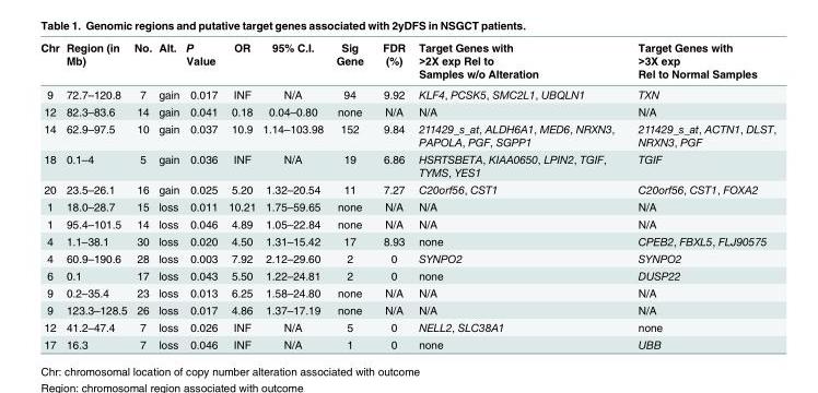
<table><thead><tr><td>Chr</td><td>Region (in Mb)</td><td>No.</td><td>Alt.</td><td>P Value</td><td>OR</td><td>95% C.I.</td><td>Sig Gene</td><td>FDR (%)</td><td>Target Genes with &gt;2X exp Rel to Samples w/o Alteration</td><td>Target Genes with &gt;3X exp Rel to Normal Samples</td></tr></thead><tbody><tr><td>9</td><td>72.7–120.8</td><td>7</td><td>gain</td><td>0.017</td><td>INF</td><td>N/A</td><td>94</td><td>9.92</td><td>KLF4, PCSK5, SMC2L1, UBQLN1</td><td>TXN</td></tr><tr><td>12</td><td>82.3–83.6</td><td>14</td><td>gain</td><td>0.041</td><td>0.18</td><td>0.04–0.80</td><td>none</td><td>N/A</td><td>N/A</td><td>N/A</td></tr><tr><td>14</td><td>62.9–97.5</td><td>10</td><td>gain</td><td>0.037</td><td>10.9</td><td>1.14–103.98</td><td>152</td><td>9.84</td><td>211429_s_at, ALDH6A1, MED6, NRXN3, PAPOLA, PGF, SGPP1</td><td>211429_s_at, ACTN1, DLST, NRXN3, PGF</td></tr><tr><td>18</td><td>0.1–4</td><td>5</td><td>gain</td><td>0.036</td><td>INF</td><td>N/A</td><td>19</td><td>6.86</td><td>HSRTSBETA, KIAA0650, LPIN2, TGIF, TYMS, YES1</td><td>TGIF</td></tr><tr><td>20</td><td>23.5–26.1</td><td>16</td><td>gain</td><td>0.025</td><td>5.20</td><td>1.32–20.54</td><td>11</td><td>7.27</td><td>C20orf56, CST1</td><td>C20orf56, CST1, FOXA2</td></tr><tr><td>1</td><td>18.0–28.7</td><td>15</td><td>loss</td><td>0.011</td><td>10.21</td><td>1.75–59.65</td><td>none</td><td>N/A</td><td>N/A</td><td>N/A</td></tr><tr><td>1</td><td>95.4–101.5</td><td>14</td><td>loss</td><td>0.046</td><td>4.89</td><td>1.05–22.84</td><td>none</td><td>N/A</td><td>N/A</td><td>N/A</td></tr><tr><td>4</td><td>1.1–38.1</td><td>30</td><td>loss</td><td>0.020</td><td>4.50</td><td>1.31–15.42</td><td>17</td><td>8.93</td><td>none</td><td>CPEB2, FBXL5, FLJ90575</td></tr><tr><td>4</td><td>60.9–190.6</td><td>28</td><td>loss</td><td>0.003</td><td>7.92</td><td>2.12–29.60</td><td>2</td><td>0</td><td>SYNPO2</td><td>SYNPO2</td></tr><tr><td>6</td><td>0.1</td><td>17</td><td>loss</td><td>0.043</td><td>5.50</td><td>1.22–24.81</td><td>2</td><td>0</td><td>none</td><td>DUSP22</td></tr><tr><td>9</td><td>0.2–35.4</td><td>23</td><td>loss</td><td>0.013</td><td>6.25</td><td>1.58–24.80</td><td>none</td><td>N/A</td><td>N/A</td><td>N/A</td></tr><tr><td>9</td><td>123.3–128.5</td><td>26</td><td>loss</td><td>0.017</td><td>4.86</td><td>1.37–17.19</td><td>none</td><td>N/A</td><td>N/A</td><td>N/A</td></tr><tr><td>12</td><td>41.2–47.4</td><td>7</td><td>loss</td><td>0.026</td><td>INF</td><td>N/A</td><td>5</td><td>0</td><td>NELL2, SLC38A1</td><td>none</td></tr><tr><td>17</td><td>16.3</td><td>7</td><td>loss</td><td>0.046</td><td>INF</td><td>N/A</td><td>1</td><td>0</td><td>none</td><td>UBB</td></tr></tbody></table>